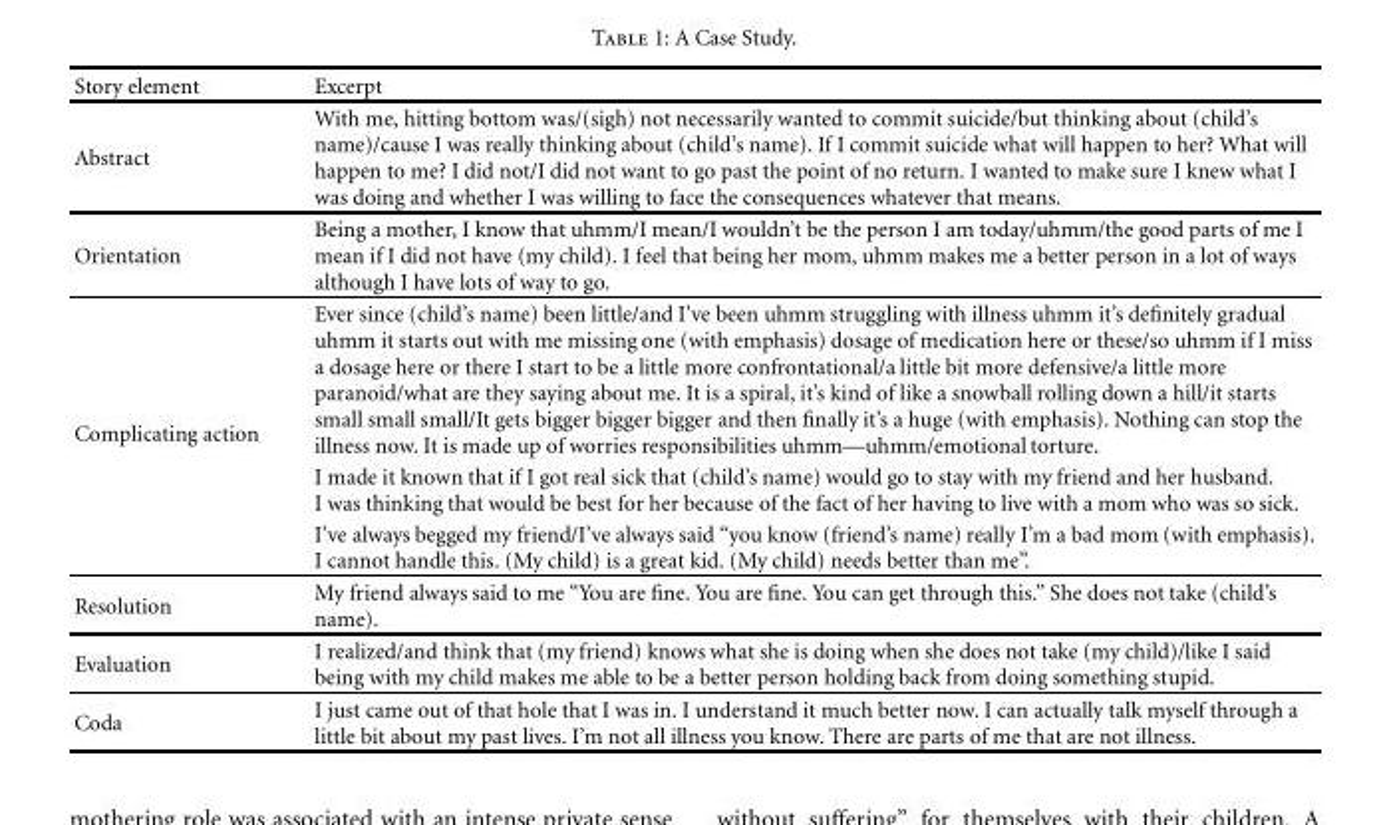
<table><thead><tr><td>Story element</td><td>Excerpt</td></tr></thead><tbody><tr><td>Abstract</td><td>With me, hitting bottom was/(sigh) not necessarily wanted to commit suicide/but thinking about (child’s name)/cause I was really thinking about (child’s name). If I commit suicide what will happen to her? What will happen to me? I did not/I did not want to go past the point of no return. I wanted to make sure I knew what I was doing and whether I was willing to face the consequences whatever that means.</td></tr><tr><td>Orientation</td><td>Being a mother, I know that uhmm/I mean/I wouldn’t be the person I am today/uhmm/the good parts of me I mean if I did not have (my child). I feel that being her mom, uhmm makes me a better person in a lot of ways although I have lots of way to go.</td></tr><tr><td rowspan="3">Complicating action</td><td>Ever since (child’s name) been little/and I’ve been uhmm struggling with illness uhmm it’s definitely gradual uhmm it starts out with me missing one (with emphasis) dosage of medication here or these/so uhmm if I miss a dosage here or there I start to be a little more confrontational/a little bit more defensive/a little more paranoid/what are they saying about me. It is a spiral, it’s kind of like a snowball rolling down a hill/it starts small small small/It gets bigger bigger bigger and then finally it’s a huge (with emphasis). Nothing can stop the illness now. It is made up of worries responsibilities uhmm—uhmm/emotional torture.</td></tr><tr><td>I made it known that if I got real sick that (child’s name) would go to stay with my friend and her husband. I was thinking that would be best for her because of the fact of her having to live with a mom who was so sick.</td></tr><tr><td>I’ve always begged my friend/I’ve always said “you know (friend’s name) really I’m a bad mom (with emphasis). I cannot handle this. (My child) is a great kid. (My child) needs better than me”.</td></tr><tr><td>Resolution</td><td>My friend always said to me “You are fine. You are fine. You can get through this.” She does not take (child’s name).</td></tr><tr><td>Evaluation</td><td>I realized/and think that (my friend) knows what she is doing when she does not take (my child)/like I said being with my child makes me able to be a better person holding back from doing something stupid.</td></tr><tr><td>Coda</td><td>I just came out of that hole that I was in. I understand it much better now. I can actually talk myself through a little bit about my past lives. I’m not all illness you know. There are parts of me that are not illness.</td></tr></tbody></table>